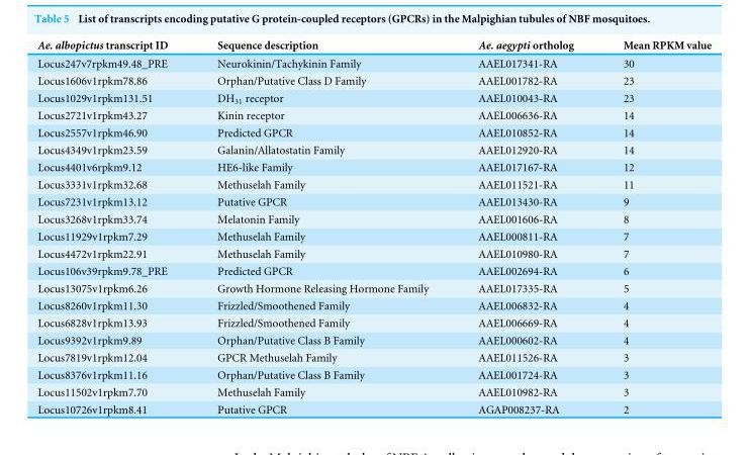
<table><thead><tr><td>Ae. albopictus transcript ID</td><td>Sequence description</td><td>Ae. aegypti ortholog</td><td>Mean RPKM value</td></tr></thead><tbody><tr><td>Locus247v7rpkm49.48_PRE</td><td>Neurokinin/Tachykinin Family</td><td>AAEL017341-RA</td><td>30</td></tr><tr><td>Locus1606v1rpkm78.86</td><td>Orphan/Putative Class D Family</td><td>AAEL001782-RA</td><td>23</td></tr><tr><td>Locus1029v1rpkm131.51</td><td>DH<sub>31</sub> receptor</td><td>AAEL010043-RA</td><td>23</td></tr><tr><td>Locus2721v1rpkm43.27</td><td>Kinin receptor</td><td>AAEL006636-RA</td><td>14</td></tr><tr><td>Locus2557v1rpkm46.90</td><td>Predicted GPCR</td><td>AAEL010852-RA</td><td>14</td></tr><tr><td>Locus4349v1rpkm23.59</td><td>Galanin/Allatostatin Family</td><td>AAEL012920-RA</td><td>14</td></tr><tr><td>Locus4401v6rpkm9.12</td><td>HE6-like Family</td><td>AAEL017167-RA</td><td>12</td></tr><tr><td>Locus3331v1rpkm32.68</td><td>Methuselah Family</td><td>AAEL011521-RA</td><td>11</td></tr><tr><td>Locus7231v1rpkm13.12</td><td>Putative GPCR</td><td>AAEL013430-RA</td><td>9</td></tr><tr><td>Locus3268v1rpkm33.74</td><td>Melatonin Family</td><td>AAEL001606-RA</td><td>8</td></tr><tr><td>Locus11929v1rpkm7.29</td><td>Methuselah Family</td><td>AAEL000811-RA</td><td>7</td></tr><tr><td>Locus4472v1rpkm22.91</td><td>Methuselah Family</td><td>AAEL010980-RA</td><td>7</td></tr><tr><td>Locus106v39rpkm9.78_PRE</td><td>Predicted GPCR</td><td>AAEL002694-RA</td><td>6</td></tr><tr><td>Locus13075v1rpkm6.26</td><td>Growth Hormone Releasing Hormone Family</td><td>AAEL017335-RA</td><td>5</td></tr><tr><td>Locus8260v1rpkm11.30</td><td>Frizzled/Smoothened Family</td><td>AAEL006832-RA</td><td>4</td></tr><tr><td>Locus6828v1rpkm13.93</td><td>Frizzled/Smoothened Family</td><td>AAEL006669-RA</td><td>4</td></tr><tr><td>Locus9392v1rpkm9.89</td><td>Orphan/Putative Class B Family</td><td>AAEL000602-RA</td><td>4</td></tr><tr><td>Locus7819v1rpkm12.04</td><td>GPCR Methuselah Family</td><td>AAEL011526-RA</td><td>3</td></tr><tr><td>Locus8376v1rpkm11.16</td><td>Orphan/Putative Class B Family</td><td>AAEL001724-RA</td><td>3</td></tr><tr><td>Locus11502v1rpkm7.70</td><td>Methuselah Family</td><td>AAEL010982-RA</td><td>3</td></tr><tr><td>Locus10726v1rpkm8.41</td><td>Putative GPCR</td><td>AGAP008237-RA</td><td>2</td></tr></tbody></table>